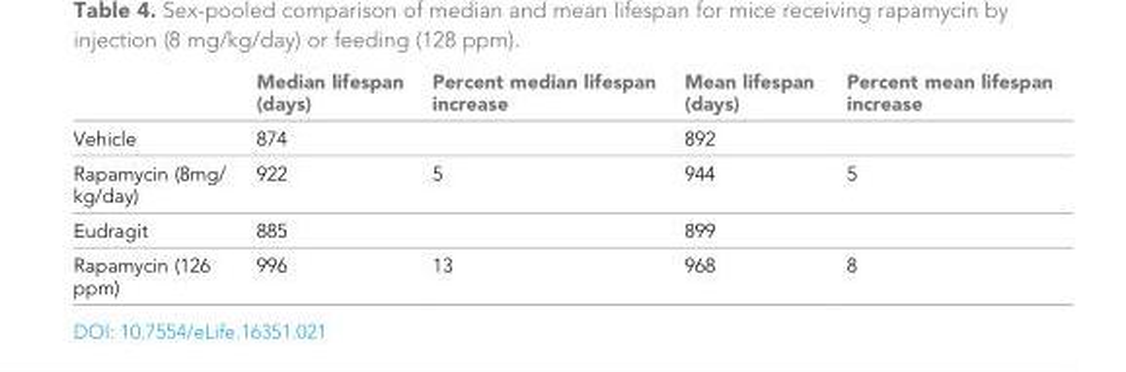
<table><thead><tr><td></td><td>Median lifespan (days)</td><td>Percent median lifespan increase</td><td>Mean lifespan (days)</td><td>Percent mean lifespan increase</td></tr></thead><tbody><tr><td>Vehicle</td><td>874</td><td></td><td>892</td><td></td></tr><tr><td>Rapamycin (8mg/ kg/day)</td><td>922</td><td>5</td><td>944</td><td>5</td></tr><tr><td>Eudragit</td><td>885</td><td></td><td>899</td><td></td></tr><tr><td>Rapamycin (126 ppm)</td><td>996</td><td>13</td><td>968</td><td>8</td></tr></tbody></table>